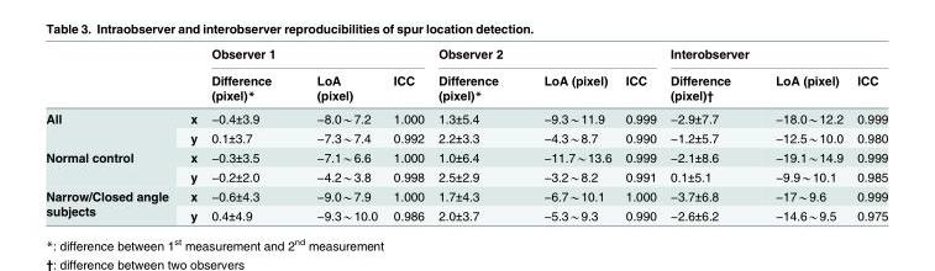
<table><thead><tr><td rowspan="2"></td><td rowspan="2"></td><td colspan="3">Observer 1</td><td colspan="3">Observer 2</td><td colspan="3">Interobserver</td></tr><tr><td>Difference (pixel)*</td><td>LoA (pixel)</td><td>ICC</td><td>Difference (pixel)*</td><td>LoA (pixel)</td><td>ICC</td><td>Difference (pixel)†</td><td>LoA (pixel)</td><td>ICC</td></tr></thead><tbody><tr><td rowspan="2">All</td><td>x</td><td>−0.4±3.9</td><td>−8.0*7.2</td><td>1.000</td><td>1.3±5.4</td><td>−9.3*11.9</td><td>0.999</td><td>−2.9±7.7</td><td>−18.0*12.2</td><td>0.999</td></tr><tr><td>y</td><td>0.1±3.7</td><td>−7.3*7.4</td><td>0.992</td><td>2.2±3.3</td><td>−4.3*8.7</td><td>0.990</td><td>−1.2±5.7</td><td>−12.5*10.0</td><td>0.980</td></tr><tr><td rowspan="2">Normal control</td><td>x</td><td>−0.3±3.5</td><td>−7.1*6.6</td><td>1.000</td><td>1.0±6.4</td><td>−11.7*13.6</td><td>0.999</td><td>−2.1±8.6</td><td>−19.1*14.9</td><td>0.999</td></tr><tr><td>y</td><td>−0.2±2.0</td><td>−4.2*3.8</td><td>0.998</td><td>2.5±2.9</td><td>−3.2*8.2</td><td>0.991</td><td>0.1±5.1</td><td>−9.9*10.1</td><td>0.985</td></tr><tr><td rowspan="2">Narrow/Closed angle subjects</td><td>x</td><td>−0.6±4.3</td><td>−9.0*7.9</td><td>1.000</td><td>1.7±4.3</td><td>−6.7*10.1</td><td>1.000</td><td>−3.7±6.8</td><td>−17*9.6</td><td>0.999</td></tr><tr><td>y</td><td>0.4±4.9</td><td>−9.3*10.0</td><td>0.986</td><td>2.0±3.7</td><td>−5.3*9.3</td><td>0.990</td><td>−2.6±6.2</td><td>−14.6*9.5</td><td>0.975</td></tr></tbody></table>